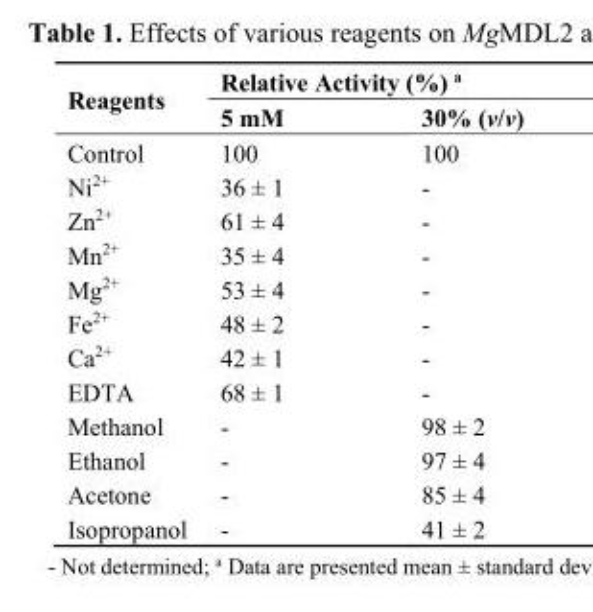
<table><thead><tr><td rowspan="2">Reagents</td><td colspan="2">Relative Activity (%) <sup>a</sup></td></tr><tr><td>5 mM</td><td>30% (v/v)</td></tr></thead><tbody><tr><td>Control</td><td>100</td><td>100</td></tr><tr><td>Ni<sup>2+</sup></td><td>36 ± 1</td><td>-</td></tr><tr><td>Zn<sup>2+</sup></td><td>61 ± 4</td><td>-</td></tr><tr><td>Mn<sup>2+</sup></td><td>35 ± 4</td><td>-</td></tr><tr><td>Mg<sup>2+</sup></td><td>53 ± 4</td><td>-</td></tr><tr><td>Fe<sup>2+</sup></td><td>48 ± 2</td><td>-</td></tr><tr><td>Ca<sup>2+</sup></td><td>42 ± 1</td><td>-</td></tr><tr><td>EDTA</td><td>68 ± 1</td><td>-</td></tr><tr><td>Methanol</td><td>-</td><td>98 ± 2</td></tr><tr><td>Ethanol</td><td>-</td><td>97 ± 4</td></tr><tr><td>Acetone</td><td>-</td><td>85 ± 4</td></tr><tr><td>Isopropanol</td><td>-</td><td>41 ± 2</td></tr></tbody></table>